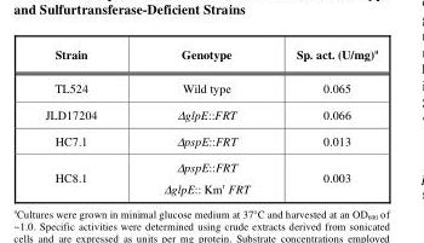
<table><thead><tr><td>Strain</td><td>Genotype</td><td>Sp. act. (U/mg)<sup>a</sup></td></tr></thead><tbody><tr><td>TL524</td><td>Wild type</td><td>0.065</td></tr><tr><td>JLD17204</td><td>ΔglpE::FRT</td><td>0.066</td></tr><tr><td>HC7.1</td><td>ΔpspE::FRT</td><td>0.013</td></tr><tr><td>HC8.1</td><td>ΔpspE::FRT ΔglpE:: Km<sup>r</sup> FRT</td><td>0.003</td></tr></tbody></table>